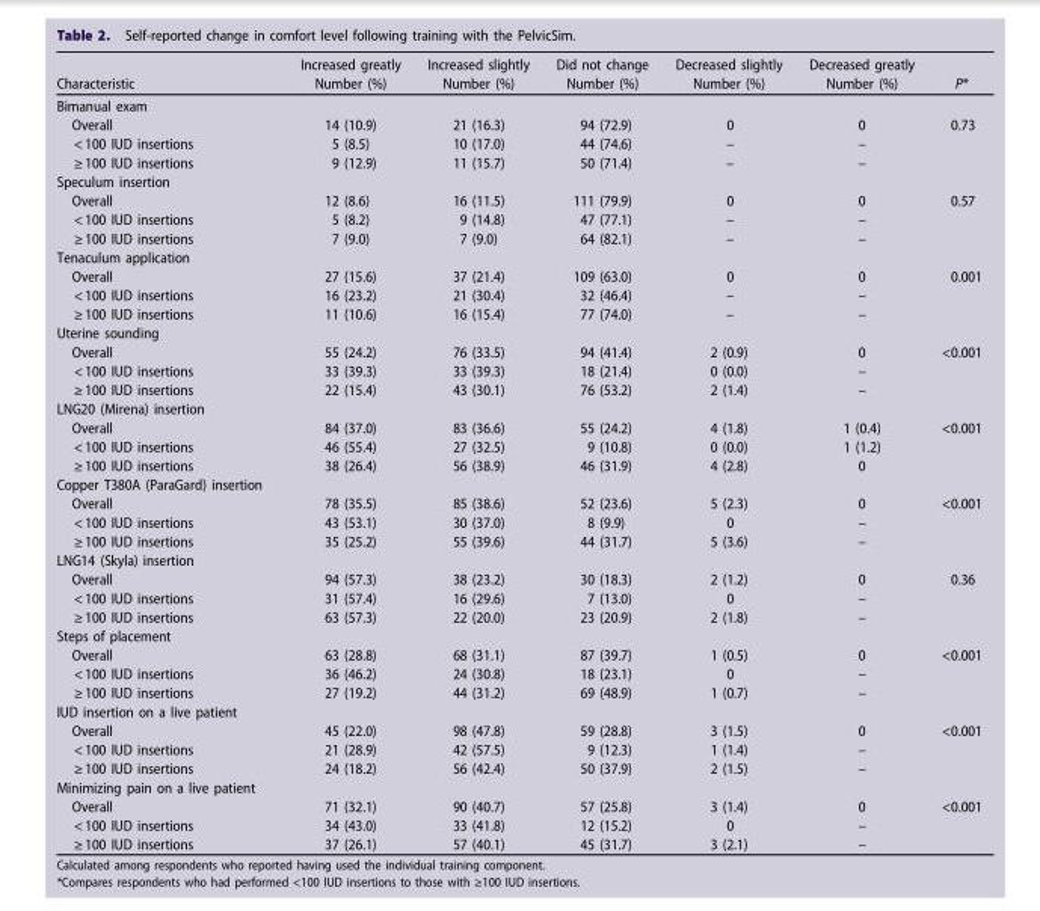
<table><thead><tr><td>Characteristic</td><td>Increased greatly Number (%)</td><td>Increased slightly Number (%)</td><td>Did not change Number (%)</td><td>Decreased slightly Number (%)</td><td>Decreased greatly Number (%)</td><td>P*</td></tr></thead><tbody><tr><td colspan="7">Bimanual exam</td></tr><tr><td>Overall</td><td>14 (10.9)</td><td>21 (16.3)</td><td>94 (72.9)</td><td>0</td><td>0</td><td>0.73</td></tr><tr><td>&lt;100 IUD insertions</td><td>5 (8.5)</td><td>10 (17.0)</td><td>44 (74.6)</td><td>–</td><td>–</td><td></td></tr><tr><td>≥100 IUD insertions</td><td>9 (12.9)</td><td>11 (15.7)</td><td>50 (71.4)</td><td>–</td><td>–</td><td></td></tr><tr><td colspan="7">Speculum insertion</td></tr><tr><td>Overall</td><td>12 (8.6)</td><td>16 (11.5)</td><td>111 (79.9)</td><td>0</td><td>0</td><td>0.57</td></tr><tr><td>&lt;100 IUD insertions</td><td>5 (8.2)</td><td>9 (14.8)</td><td>47 (77.1)</td><td>–</td><td>–</td><td></td></tr><tr><td>≥100 IUD insertions</td><td>7 (9.0)</td><td>7 (9.0)</td><td>64 (82.1)</td><td>–</td><td>–</td><td></td></tr><tr><td colspan="7">Tenaculum application</td></tr><tr><td>Overall</td><td>27 (15.6)</td><td>37 (21.4)</td><td>109 (63.0)</td><td>0</td><td>0</td><td>0.001</td></tr><tr><td>&lt;100 IUD insertions</td><td>16 (23.2)</td><td>21 (30.4)</td><td>32 (46.4)</td><td>–</td><td>–</td><td></td></tr><tr><td>≥100 IUD insertions</td><td>11 (10.6)</td><td>16 (15.4)</td><td>77 (74.0)</td><td>–</td><td>–</td><td></td></tr><tr><td colspan="7">Uterine sounding</td></tr><tr><td>Overall</td><td>55 (24.2)</td><td>76 (33.5)</td><td>94 (41.4)</td><td>2 (0.9)</td><td>0</td><td>&lt;0.001</td></tr><tr><td>&lt;100 IUD insertions</td><td>33 (39.3)</td><td>33 (39.3)</td><td>18 (21.4)</td><td>0 (0.0)</td><td>–</td><td></td></tr><tr><td>≥100 IUD insertions</td><td>22 (15.4)</td><td>43 (30.1)</td><td>76 (53.2)</td><td>2 (1.4)</td><td>–</td><td></td></tr><tr><td colspan="7">LNG20 (Mirena) insertion</td></tr><tr><td>Overall</td><td>84 (37.0)</td><td>83 (36.6)</td><td>55 (24.2)</td><td>4 (1.8)</td><td>1 (0.4)</td><td>&lt;0.001</td></tr><tr><td>&lt;100 IUD insertions</td><td>46 (55.4)</td><td>27 (32.5)</td><td>9 (10.8)</td><td>0 (0.0)</td><td>1 (1.2)</td><td></td></tr><tr><td>≥100 IUD insertions</td><td>38 (26.4)</td><td>56 (38.9)</td><td>46 (31.9)</td><td>4 (2.8)</td><td>0</td><td></td></tr><tr><td colspan="7">Copper T380A (ParaGard) insertion</td></tr><tr><td>Overall</td><td>78 (35.5)</td><td>85 (38.6)</td><td>52 (23.6)</td><td>5 (2.3)</td><td>0</td><td>&lt;0.001</td></tr><tr><td>&lt;100 IUD insertions</td><td>43 (53.1)</td><td>30 (37.0)</td><td>8 (9.9)</td><td>0</td><td>–</td><td></td></tr><tr><td>≥100 IUD insertions</td><td>35 (25.2)</td><td>55 (39.6)</td><td>44 (31.7)</td><td>5 (3.6)</td><td>–</td><td></td></tr><tr><td colspan="7">LNG14 (Skyla) insertion</td></tr><tr><td>Overall</td><td>94 (57.3)</td><td>38 (23.2)</td><td>30 (18.3)</td><td>2 (1.2)</td><td>0</td><td>0.36</td></tr><tr><td>&lt;100 IUD insertions</td><td>31 (57.4)</td><td>16 (29.6)</td><td>7 (13.0)</td><td>0</td><td>–</td><td></td></tr><tr><td>≥100 IUD insertions</td><td>63 (57.3)</td><td>22 (20.0)</td><td>23 (20.9)</td><td>2 (1.8)</td><td>–</td><td></td></tr><tr><td colspan="7">Steps of placement</td></tr><tr><td>Overall</td><td>63 (28.8)</td><td>68 (31.1)</td><td>87 (39.7)</td><td>1 (0.5)</td><td>0</td><td>&lt;0.001</td></tr><tr><td>&lt;100 IUD insertions</td><td>36 (46.2)</td><td>24 (30.8)</td><td>18 (23.1)</td><td>0</td><td>–</td><td></td></tr><tr><td>≥100 IUD insertions</td><td>27 (19.2)</td><td>44 (31.2)</td><td>69 (48.9)</td><td>1 (0.7)</td><td>–</td><td></td></tr><tr><td colspan="7">IUD insertion on a live patient</td></tr><tr><td>Overall</td><td>45 (22.0)</td><td>98 (47.8)</td><td>59 (28.8)</td><td>3 (1.5)</td><td>0</td><td>&lt;0.001</td></tr><tr><td>&lt;100 IUD insertions</td><td>21 (28.9)</td><td>42 (57.5)</td><td>9 (12.3)</td><td>1 (1.4)</td><td>–</td><td></td></tr><tr><td>≥100 IUD insertions</td><td>24 (18.2)</td><td>56 (42.4)</td><td>50 (37.9)</td><td>2 (1.5)</td><td>–</td><td></td></tr><tr><td colspan="7">Minimizing pain on a live patient</td></tr><tr><td>Overall</td><td>71 (32.1)</td><td>90 (40.7)</td><td>57 (25.8)</td><td>3 (1.4)</td><td>0</td><td>&lt;0.001</td></tr><tr><td>&lt;100 IUD insertions</td><td>34 (43.0)</td><td>33 (41.8)</td><td>12 (15.2)</td><td>0</td><td>–</td><td></td></tr><tr><td>≥100 IUD insertions</td><td>37 (26.1)</td><td>57 (40.1)</td><td>45 (31.7)</td><td>3 (2.1)</td><td>–</td><td></td></tr></tbody></table>